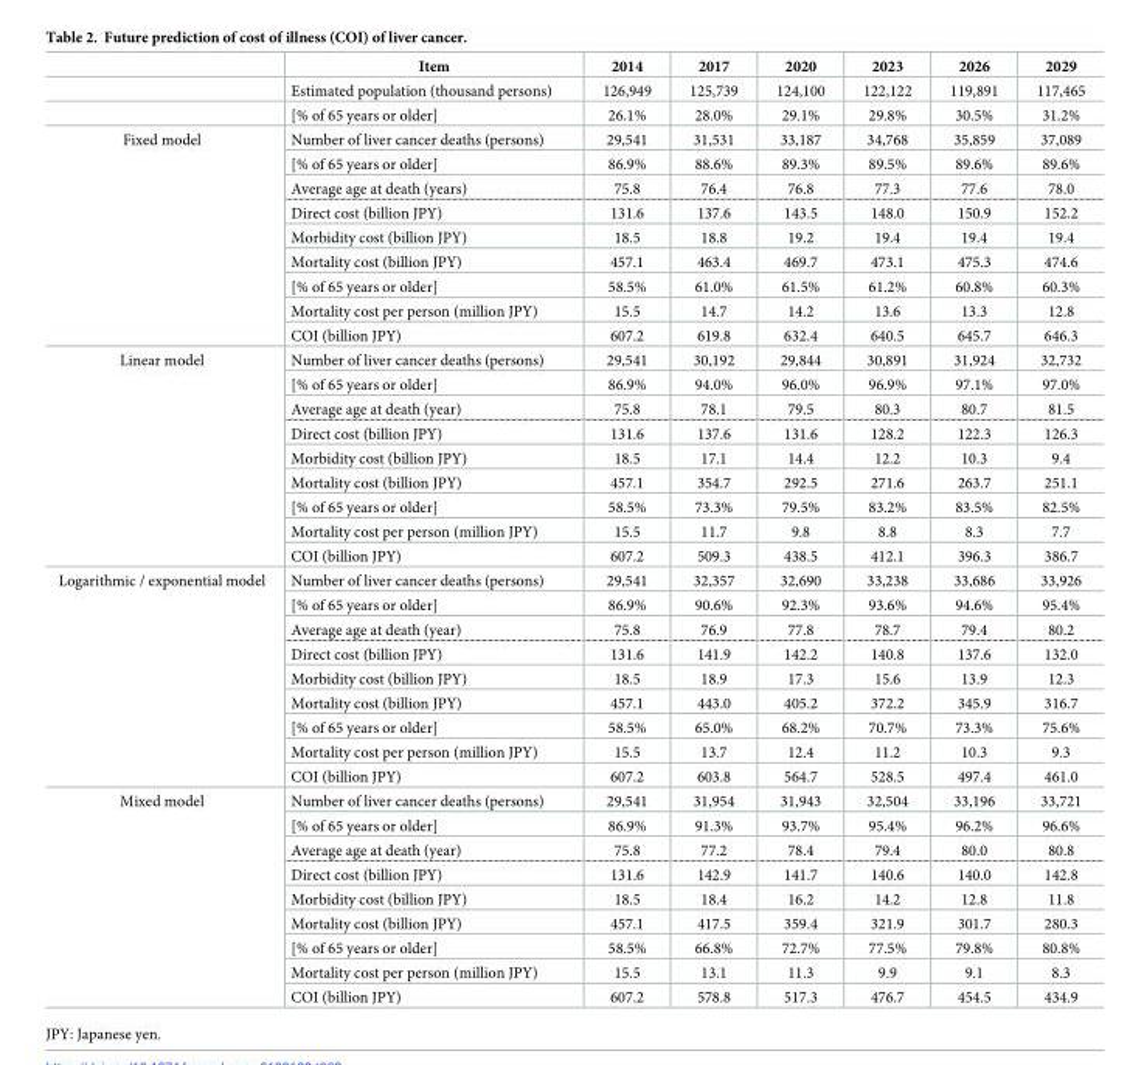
<table><thead><tr><td></td><td>Item</td><td>2014</td><td>2017</td><td>2020</td><td>2023</td><td>2026</td><td>2029</td></tr></thead><tbody><tr><td></td><td>Estimated population (thousand persons)</td><td>126,949</td><td>125,739</td><td>124,100</td><td>122,122</td><td>119,891</td><td>117,465</td></tr><tr><td></td><td>[% of 65 years or older]</td><td>26.1%</td><td>28.0%</td><td>29.1%</td><td>29.8%</td><td>30.5%</td><td>31.2%</td></tr><tr><td rowspan="9">Fixed model</td><td>Number of liver cancer deaths (persons)</td><td>29,541</td><td>31,531</td><td>33,187</td><td>34,768</td><td>35,859</td><td>37,089</td></tr><tr><td>[% of 65 years or older]</td><td>86.9%</td><td>88.6%</td><td>89.3%</td><td>89.5%</td><td>89.6%</td><td>89.6%</td></tr><tr><td>Average age at death (years)</td><td>75.8</td><td>76.4</td><td>76.8</td><td>77.3</td><td>77.6</td><td>78.0</td></tr><tr><td>Direct cost (billion JPY)</td><td>131.6</td><td>137.6</td><td>143.5</td><td>148.0</td><td>150.9</td><td>152.2</td></tr><tr><td>Morbidity cost (billion JPY)</td><td>18.5</td><td>18.8</td><td>19.2</td><td>19.4</td><td>19.4</td><td>19.4</td></tr><tr><td>Mortality cost (billion JPY)</td><td>457.1</td><td>463.4</td><td>469.7</td><td>473.1</td><td>475.3</td><td>474.6</td></tr><tr><td>[% of 65 years or older]</td><td>58.5%</td><td>61.0%</td><td>61.5%</td><td>61.2%</td><td>60.8%</td><td>60.3%</td></tr><tr><td>Mortality cost per person (million JPY)</td><td>15.5</td><td>14.7</td><td>14.2</td><td>13.6</td><td>13.3</td><td>12.8</td></tr><tr><td>COI (billion JPY)</td><td>607.2</td><td>619.8</td><td>632.4</td><td>640.5</td><td>645.7</td><td>646.3</td></tr><tr><td rowspan="9">Linear model</td><td>Number of liver cancer deaths (persons)</td><td>29,541</td><td>30,192</td><td>29,844</td><td>30,891</td><td>31,924</td><td>32,732</td></tr><tr><td>[% of 65 years or older]</td><td>86.9%</td><td>94.0%</td><td>96.0%</td><td>96.9%</td><td>97.1%</td><td>97.0%</td></tr><tr><td>Average age at death (year)</td><td>75.8</td><td>78.1</td><td>79.5</td><td>80.3</td><td>80.7</td><td>81.5</td></tr><tr><td>Direct cost (billion JPY)</td><td>131.6</td><td>137.6</td><td>131.6</td><td>128.2</td><td>122.3</td><td>126.3</td></tr><tr><td>Morbidity cost (billion JPY)</td><td>18.5</td><td>17.1</td><td>14.4</td><td>12.2</td><td>10.3</td><td>9.4</td></tr><tr><td>Mortality cost (billion JPY)</td><td>457.1</td><td>354.7</td><td>292.5</td><td>271.6</td><td>263.7</td><td>251.1</td></tr><tr><td>[% of 65 years or older]</td><td>58.5%</td><td>73.3%</td><td>79.5%</td><td>83.2%</td><td>83.5%</td><td>82.5%</td></tr><tr><td>Mortality cost per person (million JPY)</td><td>15.5</td><td>11.7</td><td>9.8</td><td>8.8</td><td>8.3</td><td>7.7</td></tr><tr><td>COI (billion JPY)</td><td>607.2</td><td>509.3</td><td>438.5</td><td>412.1</td><td>396.3</td><td>386.7</td></tr><tr><td rowspan="9">Logarithmic / exponential model</td><td>Number of liver cancer deaths (persons)</td><td>29,541</td><td>32,357</td><td>32,690</td><td>33,238</td><td>33,686</td><td>33,926</td></tr><tr><td>[% of 65 years or older]</td><td>86.9%</td><td>90.6%</td><td>92.3%</td><td>93.6%</td><td>94.6%</td><td>95.4%</td></tr><tr><td>Average age at death (year)</td><td>75.8</td><td>76.9</td><td>77.8</td><td>78.7</td><td>79.4</td><td>80.2</td></tr><tr><td>Direct cost (billion JPY)</td><td>131.6</td><td>141.9</td><td>142.2</td><td>140.8</td><td>137.6</td><td>132.0</td></tr><tr><td>Morbidity cost (billion JPY)</td><td>18.5</td><td>18.9</td><td>17.3</td><td>15.6</td><td>13.9</td><td>12.3</td></tr><tr><td>Mortality cost (billion JPY)</td><td>457.1</td><td>443.0</td><td>405.2</td><td>372.2</td><td>345.9</td><td>316.7</td></tr><tr><td>[% of 65 years or older]</td><td>58.5%</td><td>65.0%</td><td>68.2%</td><td>70.7%</td><td>73.3%</td><td>75.6%</td></tr><tr><td>Mortality cost per person (million JPY)</td><td>15.5</td><td>13.7</td><td>12.4</td><td>11.2</td><td>10.3</td><td>9.3</td></tr><tr><td>COI (billion JPY)</td><td>607.2</td><td>603.8</td><td>564.7</td><td>528.5</td><td>497.4</td><td>461.0</td></tr><tr><td rowspan="9">Mixed model</td><td>Number of liver cancer deaths (persons)</td><td>29,541</td><td>31,954</td><td>31,943</td><td>32,504</td><td>33,196</td><td>33,721</td></tr><tr><td>[% of 65 years or older]</td><td>86.9%</td><td>91.3%</td><td>93.7%</td><td>95.4%</td><td>96.2%</td><td>96.6%</td></tr><tr><td>Average age at death (year)</td><td>75.8</td><td>77.2</td><td>78.4</td><td>79.4</td><td>80.0</td><td>80.8</td></tr><tr><td>Direct cost (billion JPY)</td><td>131.6</td><td>142.9</td><td>141.7</td><td>140.6</td><td>140.0</td><td>142.8</td></tr><tr><td>Morbidity cost (billion JPY)</td><td>18.5</td><td>18.4</td><td>16.2</td><td>14.2</td><td>12.8</td><td>11.8</td></tr><tr><td>Mortality cost (billion JPY)</td><td>457.1</td><td>417.5</td><td>359.4</td><td>321.9</td><td>301.7</td><td>280.3</td></tr><tr><td>[% of 65 years or older]</td><td>58.5%</td><td>66.8%</td><td>72.7%</td><td>77.5%</td><td>79.8%</td><td>80.8%</td></tr><tr><td>Mortality cost per person (million JPY)</td><td>15.5</td><td>13.1</td><td>11.3</td><td>9.9</td><td>9.1</td><td>8.3</td></tr><tr><td>COI (billion JPY)</td><td>607.2</td><td>578.8</td><td>517.3</td><td>476.7</td><td>454.5</td><td>434.9</td></tr></tbody></table>